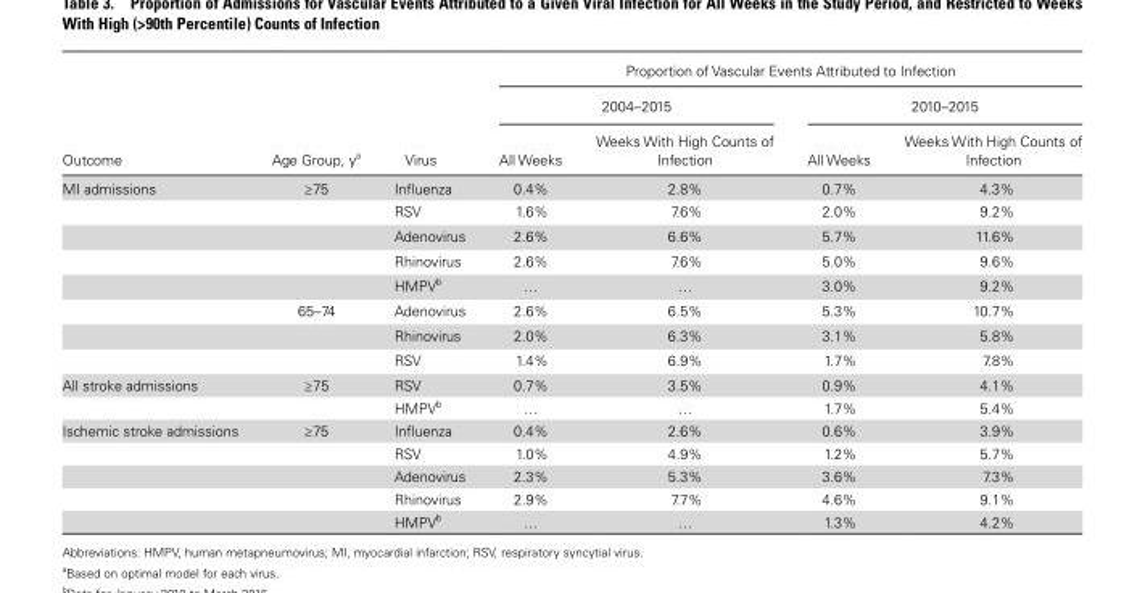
<table><thead><tr><td rowspan="3">Outcome</td><td rowspan="3">Age Group, y<sup>a</sup></td><td rowspan="3">Virus</td><td colspan="4">Proportion of Vascular Events Attributed to Infection</td></tr><tr><td colspan="2">2004–2015</td><td colspan="2">2010–2015</td></tr><tr><td>All Weeks</td><td>Weeks With High Counts of Infection</td><td>All Weeks</td><td>Weeks With High Counts of Infection</td></tr></thead><tbody><tr><td rowspan="8">MI admissions</td><td>≥75</td><td>Influenza</td><td>0.4%</td><td>2.8%</td><td>0.7%</td><td>4.3%</td></tr><tr><td></td><td>RSV</td><td>1.6%</td><td>7.6%</td><td>2.0%</td><td>9.2%</td></tr><tr><td></td><td>Adenovirus</td><td>2.6%</td><td>6.6%</td><td>5.7%</td><td>11.6%</td></tr><tr><td></td><td>Rhinovirus</td><td>2.6%</td><td>7.6%</td><td>5.0%</td><td>9.6%</td></tr><tr><td></td><td>HMPV<sup>b</sup></td><td>…</td><td>…</td><td>3.0%</td><td>9.2%</td></tr><tr><td>65–74</td><td>Adenovirus</td><td>2.6%</td><td>6.5%</td><td>5.3%</td><td>10.7%</td></tr><tr><td></td><td>Rhinovirus</td><td>2.0%</td><td>6.3%</td><td>3.1%</td><td>5.8%</td></tr><tr><td></td><td>RSV</td><td>1.4%</td><td>6.9%</td><td>1.7%</td><td>7.8%</td></tr><tr><td rowspan="2">All stroke admissions</td><td>≥75</td><td>RSV</td><td>0.7%</td><td>3.5%</td><td>0.9%</td><td>4.1%</td></tr><tr><td></td><td>HMPV<sup>b</sup></td><td>…</td><td>…</td><td>1.7%</td><td>5.4%</td></tr><tr><td rowspan="5">Ischemic stroke admissions</td><td>≥75</td><td>Influenza</td><td>0.4%</td><td>2.6%</td><td>0.6%</td><td>3.9%</td></tr><tr><td></td><td>RSV</td><td>1.0%</td><td>4.9%</td><td>1.2%</td><td>5.7%</td></tr><tr><td></td><td>Adenovirus</td><td>2.3%</td><td>5.3%</td><td>3.6%</td><td>7.3%</td></tr><tr><td></td><td>Rhinovirus</td><td>2.9%</td><td>7.7%</td><td>4.6%</td><td>9.1%</td></tr><tr><td></td><td>HMPV<sup>b</sup></td><td>…</td><td>…</td><td>1.3%</td><td>4.2%</td></tr></tbody></table>